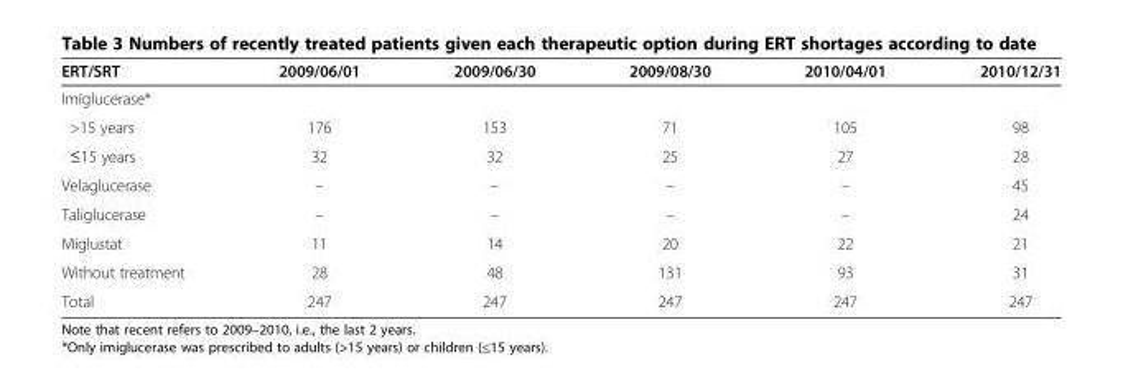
<table><thead><tr><td>ERT/SRT</td><td>2009/06/01</td><td>2009/06/30</td><td>2009/08/30</td><td>2010/04/01</td><td>2010/12/31</td></tr></thead><tbody><tr><td colspan="6">Imiglucerase*</td></tr><tr><td>&gt;15 years</td><td>176</td><td>153</td><td>71</td><td>105</td><td>98</td></tr><tr><td>≤15 years</td><td>32</td><td>32</td><td>25</td><td>27</td><td>28</td></tr><tr><td>Velaglucerase</td><td>–</td><td>–</td><td>–</td><td>–</td><td>45</td></tr><tr><td>Taliglucerase</td><td>–</td><td>–</td><td>–</td><td>–</td><td>24</td></tr><tr><td>Miglustat</td><td>11</td><td>14</td><td>20</td><td>22</td><td>21</td></tr><tr><td>Without treatment</td><td>28</td><td>48</td><td>131</td><td>93</td><td>31</td></tr><tr><td>Total</td><td>247</td><td>247</td><td>247</td><td>247</td><td>247</td></tr></tbody></table>